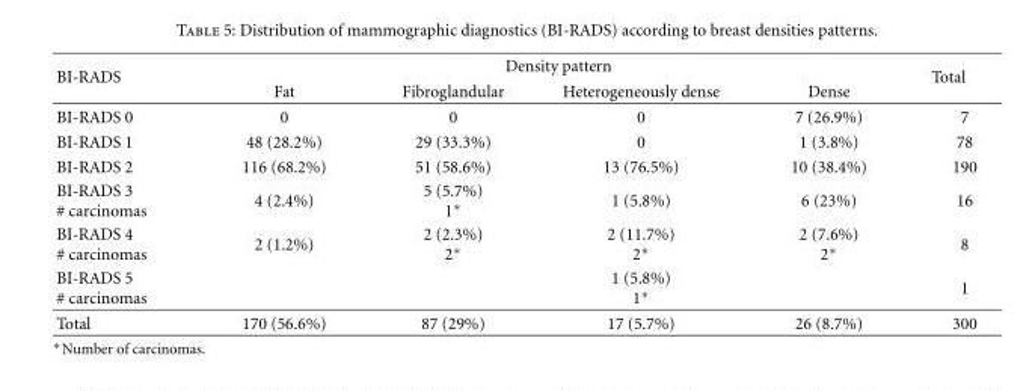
<table><thead><tr><td rowspan="2">BI-RADS</td><td colspan="4">Density pattern</td><td rowspan="2">Total</td></tr><tr><td>Fat</td><td>Fibroglandular</td><td>Heterogeneously dense</td><td>Dense</td></tr></thead><tbody><tr><td>BI-RADS 0</td><td>0</td><td>0</td><td>0</td><td>7 (26.9%)</td><td>7</td></tr><tr><td>BI-RADS 1</td><td>48 (28.2%)</td><td>29 (33.3%)</td><td>0</td><td>1 (3.8%)</td><td>78</td></tr><tr><td>BI-RADS 2</td><td>116 (68.2%)</td><td>51 (58.6%)</td><td>13 (76.5%)</td><td>10 (38.4%)</td><td>190</td></tr><tr><td>BI-RADS 3 # carcinomas</td><td>4 (2.4%)</td><td>5 (5.7%) 1∗</td><td>1 (5.8%)</td><td>6 (23%)</td><td>16</td></tr><tr><td>BI-RADS 4 # carcinomas</td><td>2 (1.2%)</td><td>2 (2.3%) 2∗</td><td>2 (11.7%) 2∗</td><td>2 (7.6%) 2∗</td><td>8</td></tr><tr><td>BI-RADS 5 # carcinomas</td><td></td><td></td><td>1 (5.8%) 1∗</td><td></td><td>1</td></tr><tr><td>Total</td><td>170 (56.6%)</td><td>87 (29%)</td><td>17 (5.7%)</td><td>26 (8.7%)</td><td>300</td></tr></tbody></table>